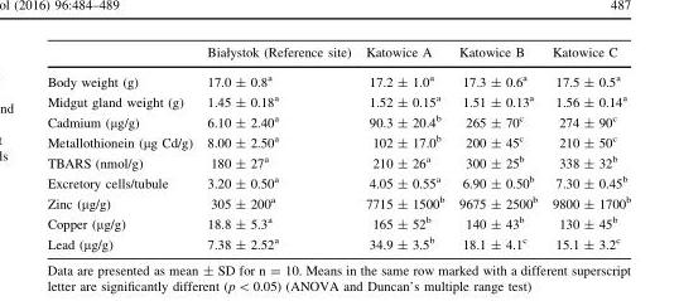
<table><thead><tr><td></td><td>Białystok (Reference site)</td><td>Katowice A</td><td>Katowice B</td><td>Katowice C</td></tr></thead><tbody><tr><td>Body weight (g)</td><td>17.0 ± 0.8<sup>a</sup></td><td>17.2 ± 1.0<sup>a</sup></td><td>17.3 ± 0.6<sup>a</sup></td><td>17.5 ± 0.5<sup>a</sup></td></tr><tr><td>Midgut gland weight (g)</td><td>1.45 ± 0.18<sup>a</sup></td><td>1.52 ± 0.15<sup>a</sup></td><td>1.51 ± 0.13<sup>a</sup></td><td>1.56 ± 0.14<sup>a</sup></td></tr><tr><td>Cadmium (µg/g)</td><td>6.10 ± 2.40<sup>a</sup></td><td>90.3 ± 20.4<sup>b</sup></td><td>265 ± 70<sup>c</sup></td><td>274 ± 90<sup>c</sup></td></tr><tr><td>Metallothionein (µg Cd/g)</td><td>8.00 ± 2.50<sup>a</sup></td><td>102 ± 17.0<sup>b</sup></td><td>200 ± 45<sup>c</sup></td><td>210 ± 50<sup>c</sup></td></tr><tr><td>TBARS (nmol/g)</td><td>180 ± 27<sup>a</sup></td><td>210 ± 26<sup>a</sup></td><td>300 ± 25<sup>b</sup></td><td>338 ± 32<sup>b</sup></td></tr><tr><td>Excretory cells/tubule</td><td>3.20 ± 0.50<sup>a</sup></td><td>4.05 ± 0.55<sup>a</sup></td><td>6.90 ± 0.50<sup>b</sup></td><td>7.30 ± 0.45<sup>b</sup></td></tr><tr><td>Zinc (µg/g)</td><td>305 ± 200<sup>a</sup></td><td>7715 ± 1500<sup>b</sup></td><td>9675 ± 2500<sup>b</sup></td><td>9800 ± 1700<sup>b</sup></td></tr><tr><td>Copper (µg/g)</td><td>18.8 ± 5.3<sup>a</sup></td><td>165 ± 52<sup>b</sup></td><td>140 ± 43<sup>b</sup></td><td>130 ± 45<sup>b</sup></td></tr><tr><td>Lead (µg/g)</td><td>7.38 ± 2.52<sup>a</sup></td><td>34.9 ± 3.5<sup>b</sup></td><td>18.1 ± 4.1<sup>c</sup></td><td>15.1 ± 3.2<sup>c</sup></td></tr></tbody></table>